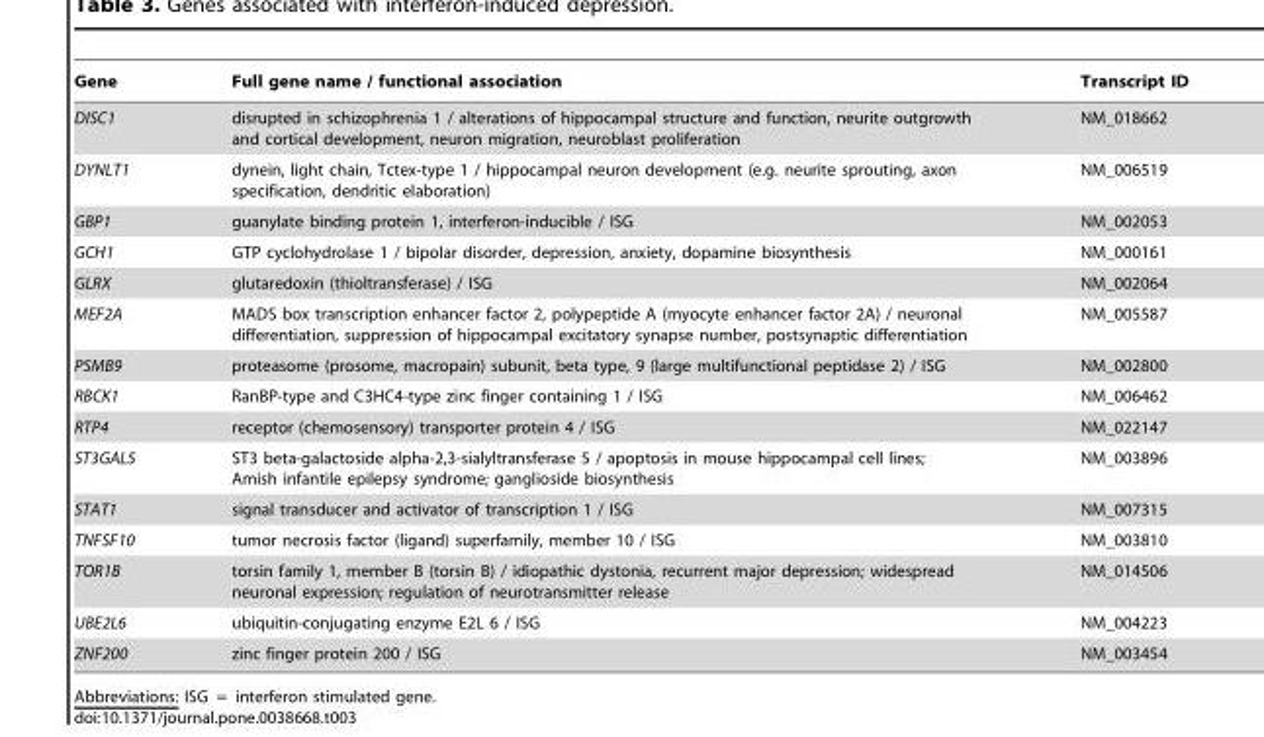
<table><thead><tr><td>Gene</td><td>Full gene name / functional association</td><td>Transcript ID</td></tr></thead><tbody><tr><td>DISC1</td><td>disrupted in schizophrenia 1 / alterations of hippocampal structure and function, neurite outgrowth and cortical development, neuron migration, neuroblast proliferation</td><td>NM_018662</td></tr><tr><td>DYNLT1</td><td>dynein, light chain, Tctex-type 1 / hippocampal neuron development (e.g. neurite sprouting, axon specification, dendritic elaboration)</td><td>NM_006519</td></tr><tr><td>GBP1</td><td>guanylate binding protein 1, interferon-inducible / ISG</td><td>NM_002053</td></tr><tr><td>GCH1</td><td>GTP cyclohydrolase 1 / bipolar disorder, depression, anxiety, dopamine biosynthesis</td><td>NM_000161</td></tr><tr><td>GLRX</td><td>glutaredoxin (thioltransferase) / ISG</td><td>NM_002064</td></tr><tr><td>MEF2A</td><td>MADS box transcription enhancer factor 2, polypeptide A (myocyte enhancer factor 2A) / neuronal differentiation, suppression of hippocampal excitatory synapse number, postsynaptic differentiation</td><td>NM_005587</td></tr><tr><td>PSMB9</td><td>proteasome (prosome, macropain) subunit, beta type, 9 (large multifunctional peptidase 2) / ISG</td><td>NM_002800</td></tr><tr><td>RBCK1</td><td>RanBP-type and C3HC4-type zinc finger containing 1 / ISG</td><td>NM_006462</td></tr><tr><td>RTP4</td><td>receptor (chemosensory) transporter protein 4 / ISG</td><td>NM_022147</td></tr><tr><td>ST3GAL5</td><td>ST3 beta-galactoside alpha-2,3-sialyltransferase 5 / apoptosis in mouse hippocampal cell lines; Amish infantile epilepsy syndrome; ganglioside biosynthesis</td><td>NM_003896</td></tr><tr><td>STAT1</td><td>signal transducer and activator of transcription 1 / ISG</td><td>NM_007315</td></tr><tr><td>TNFSF10</td><td>tumor necrosis factor (ligand) superfamily, member 10 / ISG</td><td>NM_003810</td></tr><tr><td>TOR1B</td><td>torsin family 1, member B (torsin B) / idiopathic dystonia, recurrent major depression; widespread neuronal expression; regulation of neurotransmitter release</td><td>NM_014506</td></tr><tr><td>UBE2L6</td><td>ubiquitin-conjugating enzyme E2L 6 / ISG</td><td>NM_004223</td></tr><tr><td>ZNF200</td><td>zinc finger protein 200 / ISG</td><td>NM_003454</td></tr></tbody></table>